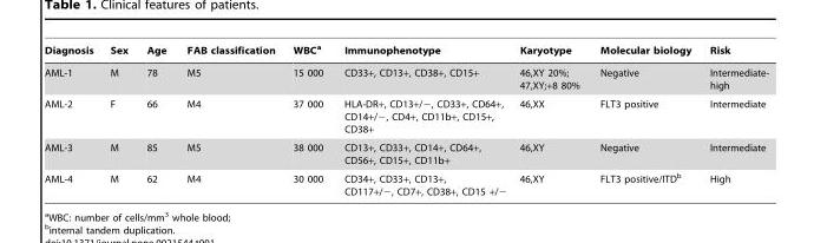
<table><thead><tr><td>Diagnosis</td><td>Sex</td><td>Age</td><td>FAB classification</td><td>WBC<sup>a</sup></td><td>Immunophenotype</td><td>Karyotype</td><td>Molecular biology</td><td>Risk</td></tr></thead><tbody><tr><td>AML-1</td><td>M</td><td>78</td><td>M5</td><td>15 000</td><td>CD33+, CD13+, CD38+, CD15+</td><td>46,XY 20%; 47,XY;+8 80%</td><td>Negative</td><td>Intermediate- high</td></tr><tr><td>AML-2</td><td>F</td><td>66</td><td>M4</td><td>37 000</td><td>HLA-DR+, CD13+/−, CD33+, CD64+, CD14+/−, CD4+, CD11b+, CD15+, CD38+</td><td>46,XX</td><td>FLT3 positive</td><td>Intermediate</td></tr><tr><td>AML-3</td><td>M</td><td>85</td><td>M5</td><td>38 000</td><td>CD13+, CD33+, CD14+, CD64+, CD56+, CD15+, CD11b+</td><td>46,XY</td><td>Negative</td><td>Intermediate</td></tr><tr><td>AML-4</td><td>M</td><td>62</td><td>M4</td><td>30 000</td><td>CD34+, CD33+, CD13+, CD117+/−, CD7+, CD38+, CD15 +/−</td><td>46,XY</td><td>FLT3 positive/ITD<sup>b</sup></td><td>High</td></tr></tbody></table>